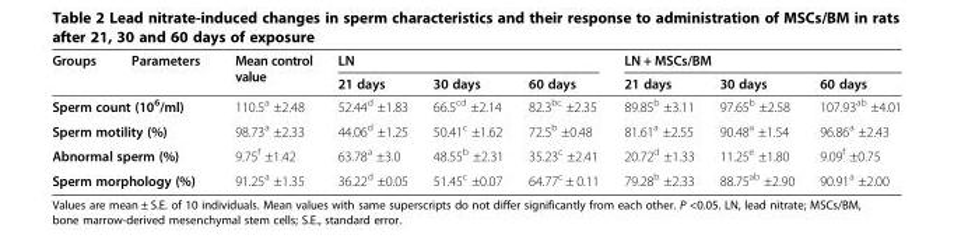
<table><thead><tr><td rowspan="2">Groups</td><td rowspan="2">Parameters</td><td rowspan="2">Mean control value</td><td colspan="3">LN</td><td colspan="3">LN + MSCs/BM</td></tr><tr><td>21 days</td><td>30 days</td><td>60 days</td><td>21 days</td><td>30 days</td><td>60 days</td></tr></thead><tbody><tr><td colspan="2">Sperm count (10<sup>6</sup>/ml)</td><td>110.5<sup>a</sup> ±2.48</td><td>52.44<sup>d</sup> ±1.83</td><td>66.5<sup>cd</sup> ±2.14</td><td>82.3<sup>bc</sup> ±2.35</td><td>89.85<sup>b</sup> ±3.11</td><td>97.65<sup>b</sup> ±2.58</td><td>107.93<sup>ab</sup> ±4.01</td></tr><tr><td colspan="2">Sperm motility (%)</td><td>98.73<sup>a</sup> ±2.33</td><td>44.06<sup>d</sup> ±1.25</td><td>50.41<sup>c</sup> ±1.62</td><td>72.5<sup>b</sup> ±0.48</td><td>81.61<sup>a</sup> ±2.55</td><td>90.48<sup>a</sup> ±1.54</td><td>96.86<sup>a</sup> ±2.43</td></tr><tr><td colspan="2">Abnormal sperm (%)</td><td>9.75<sup>f</sup> ±1.42</td><td>63.78<sup>a</sup> ±3.0</td><td>48.55<sup>b</sup> ±2.31</td><td>35.23<sup>c</sup> ±2.41</td><td>20.72<sup>d</sup> ±1.33</td><td>11.25<sup>e</sup> ±1.80</td><td>9.09<sup>f</sup> ±0.75</td></tr><tr><td colspan="2">Sperm morphology (%)</td><td>91.25<sup>a</sup> ±1.35</td><td>36.22<sup>d</sup> ±0.05</td><td>51.45<sup>c</sup> ±0.07</td><td>64.77<sup>c</sup> ± 0.11</td><td>79.28<sup>b</sup> ±2.33</td><td>88.75<sup>ab</sup> ±2.90</td><td>90.91<sup>a</sup> ±2.00</td></tr></tbody></table>